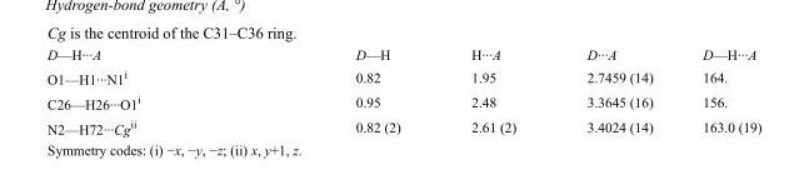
<table><tbody><tr><td>D—H···A</td><td>D—H</td><td>H···A</td><td>D···A</td><td>D—H···A</td></tr><tr><td>O1—H1···N1<sup>i</sup></td><td>0.82</td><td>1.95</td><td>2.7459 (14)</td><td>164.</td></tr><tr><td>C26—H26···O1<sup>i</sup></td><td>0.95</td><td>2.48</td><td>3.3645 (16)</td><td>156.</td></tr><tr><td>N2—H72···Cg<sup>ii</sup></td><td>0.82 (2)</td><td>2.61 (2)</td><td>3.4024 (14)</td><td>163.0 (19)</td></tr></tbody></table>